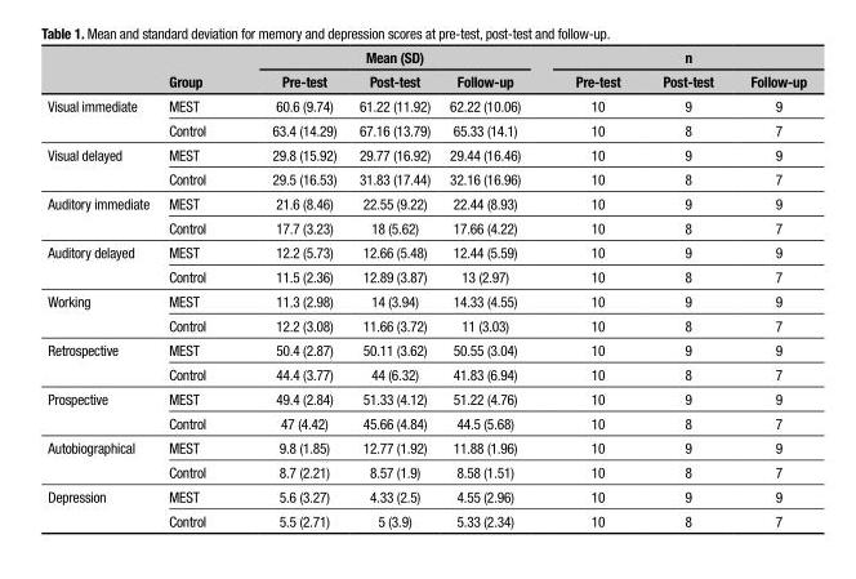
<table><thead><tr><td rowspan="2"></td><td rowspan="2">Group</td><td colspan="3">Mean (SD)</td><td colspan="3">n</td></tr><tr><td>Pre-test</td><td>Post-test</td><td>Follow-up</td><td>Pre-test</td><td>Post-test</td><td>Follow-up</td></tr></thead><tbody><tr><td rowspan="2">Visual immediate</td><td>MEST</td><td>60.6 (9.74)</td><td>61.22 (11.92)</td><td>62.22 (10.06)</td><td>10</td><td>9</td><td>9</td></tr><tr><td>Control</td><td>63.4 (14.29)</td><td>67.16 (13.79)</td><td>65.33 (14.1)</td><td>10</td><td>8</td><td>7</td></tr><tr><td rowspan="2">Visual delayed</td><td>MEST</td><td>29.8 (15.92)</td><td>29.77 (16.92)</td><td>29.44 (16.46)</td><td>10</td><td>9</td><td>9</td></tr><tr><td>Control</td><td>29.5 (16.53)</td><td>31.83 (17.44)</td><td>32.16 (16.96)</td><td>10</td><td>8</td><td>7</td></tr><tr><td rowspan="2">Auditory immediate</td><td>MEST</td><td>21.6 (8.46)</td><td>22.55 (9.22)</td><td>22.44 (8.93)</td><td>10</td><td>9</td><td>9</td></tr><tr><td>Control</td><td>17.7 (3.23)</td><td>18 (5.62)</td><td>17.66 (4.22)</td><td>10</td><td>8</td><td>7</td></tr><tr><td rowspan="2">Auditory delayed</td><td>MEST</td><td>12.2 (5.73)</td><td>12.66 (5.48)</td><td>12.44 (5.59)</td><td>10</td><td>9</td><td>9</td></tr><tr><td>Control</td><td>11.5 (2.36)</td><td>12.89 (3.87)</td><td>13 (2.97)</td><td>10</td><td>8</td><td>7</td></tr><tr><td rowspan="2">Working</td><td>MEST</td><td>11.3 (2.98)</td><td>14 (3.94)</td><td>14.33 (4.55)</td><td>10</td><td>9</td><td>9</td></tr><tr><td>Control</td><td>12.2 (3.08)</td><td>11.66 (3.72)</td><td>11 (3.03)</td><td>10</td><td>8</td><td>7</td></tr><tr><td rowspan="2">Retrospective</td><td>MEST</td><td>50.4 (2.87)</td><td>50.11 (3.62)</td><td>50.55 (3.04)</td><td>10</td><td>9</td><td>9</td></tr><tr><td>Control</td><td>44.4 (3.77)</td><td>44 (6.32)</td><td>41.83 (6.94)</td><td>10</td><td>8</td><td>7</td></tr><tr><td rowspan="2">Prospective</td><td>MEST</td><td>49.4 (2.84)</td><td>51.33 (4.12)</td><td>51.22 (4.76)</td><td>10</td><td>9</td><td>9</td></tr><tr><td>Control</td><td>47 (4.42)</td><td>45.66 (4.84)</td><td>44.5 (5.68)</td><td>10</td><td>8</td><td>7</td></tr><tr><td rowspan="2">Autobiographical</td><td>MEST</td><td>9.8 (1.85)</td><td>12.77 (1.92)</td><td>11.88 (1.96)</td><td>10</td><td>9</td><td>9</td></tr><tr><td>Control</td><td>8.7 (2.21)</td><td>8.57 (1.9)</td><td>8.58 (1.51)</td><td>10</td><td>8</td><td>7</td></tr><tr><td rowspan="2">Depression</td><td>MEST</td><td>5.6 (3.27)</td><td>4.33 (2.5)</td><td>4.55 (2.96)</td><td>10</td><td>9</td><td>9</td></tr><tr><td>Control</td><td>5.5 (2.71)</td><td>5 (3.9)</td><td>5.33 (2.34)</td><td>10</td><td>8</td><td>7</td></tr></tbody></table>